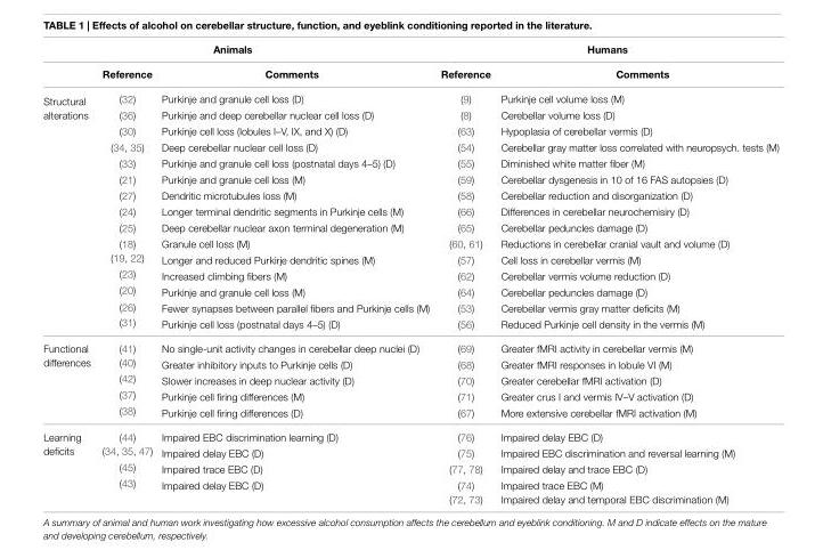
<table><thead><tr><td colspan="3">Animals</td><td colspan="2">Humans</td></tr><tr><td></td><td>Reference</td><td>Comments</td><td>Reference</td><td>Comments</td></tr></thead><tbody><tr><td rowspan="15">Structural alterations</td><td>(32)</td><td>Purkinje and granule cell loss (D)</td><td>(9)</td><td>Purkinje cell volume loss (M)</td></tr><tr><td>(36)</td><td>Purkinje and deep cerebellar nuclear cell loss (D)</td><td>(8)</td><td>Cerebellar volume loss (D)</td></tr><tr><td>(30)</td><td>Purkinje cell loss (lobules I–V, IX, and X) (D)</td><td>(63)</td><td>Hypoplasia of cerebellar vermis (D)</td></tr><tr><td>(34, 35)</td><td>Deep cerebellar nuclear cell loss (D)</td><td>(54)</td><td>Cerebellar gray matter loss correlated with neuropsych. tests (M)</td></tr><tr><td>(33)</td><td>Purkinje and granule cell loss (postnatal days 4–5) (D)</td><td>(55)</td><td>Diminished white matter fiber (M)</td></tr><tr><td>(21)</td><td>Purkinje and granule cell loss (M)</td><td>(59)</td><td>Cerebellar dysgenesis in 10 of 16 FAS autopsies (D)</td></tr><tr><td>(27)</td><td>Dendritic microtubules loss (M)</td><td>(58)</td><td>Cerebellar reduction and disorganization (D)</td></tr><tr><td>(24)</td><td>Longer terminal dendritic segments in Purkinje cells (M)</td><td>(66)</td><td>Differences in cerebellar neurochemisiry (D)</td></tr><tr><td>(25)</td><td>Deep cerebellar nuclear axon terminal degeneration (M)</td><td>(65)</td><td>Cerebellar peduncles damage (D)</td></tr><tr><td>(18)</td><td>Granule cell loss (M)</td><td>(60, 61)</td><td>Reductions in cerebellar cranial vault and volume (D)</td></tr><tr><td>(19, 22)</td><td>Longer and reduced Purkirje dendritic spines (M)</td><td>(57)</td><td>Cell loss in cerebellar vermis (M)</td></tr><tr><td>(23)</td><td>Increased climbing fibers (M)</td><td>(62)</td><td>Cerebellar vermis volume reduction (D)</td></tr><tr><td>(20)</td><td>Purkinje and granule cell loss (M)</td><td>(64)</td><td>Cerebellar peduncles damage (D)</td></tr><tr><td>(26)</td><td>Fewer synapses between parallel fibers and Purkinje cells (M)</td><td>(53)</td><td>Cerebellar vermis gray matter deficits (M)</td></tr><tr><td>(31)</td><td>Purkinje cell loss (postnatal days 4–5) (D)</td><td>(56)</td><td>Reduced Purkinje cell density in the vermis (M)</td></tr><tr><td rowspan="5">Functional differences</td><td>(41)</td><td>No single-unit activity changes in cerebellar deep nuclei (D)</td><td>(69)</td><td>Greater fMRI activity in cerebellar vermis (M)</td></tr><tr><td>(40)</td><td>Greater inhibitory inputs to Purkinje cells (D)</td><td>(68)</td><td>Greater fMRI responses in lobule VI (M)</td></tr><tr><td>(42)</td><td>Slower increases in deep nuclear activity (D)</td><td>(70)</td><td>Greater cerebellar fMRI activation (D)</td></tr><tr><td>(37)</td><td>Purkinje cell firing differences (M)</td><td>(71)</td><td>Greater crus I and vermis IV–V activation (D)</td></tr><tr><td>(38)</td><td>Purkinje cell firing differences (D)</td><td>(67)</td><td>More extensive cerebellar fMRI activation (M)</td></tr><tr><td rowspan="5">Learning deficits</td><td>(44)</td><td>Impaired EBC discrimination learning (D)</td><td>(76)</td><td>Impaired delay EBC (D)</td></tr><tr><td>(34, 35, 47)</td><td>Impaired delay EBC (D)</td><td>(75)</td><td>Impaired EBC discrimination and reversal learning (M)</td></tr><tr><td>(45)</td><td>Impaired trace EBC (D)</td><td>(77, 78)</td><td>Impaired delay and trace EBC (D)</td></tr><tr><td>(43)</td><td>Impaired delay EBC (D)</td><td>(74)</td><td>Impaired trace EBC (M)</td></tr><tr><td></td><td></td><td>(72, 73)</td><td>Impaired delay and temporal EBC discrimination (M)</td></tr></tbody></table>